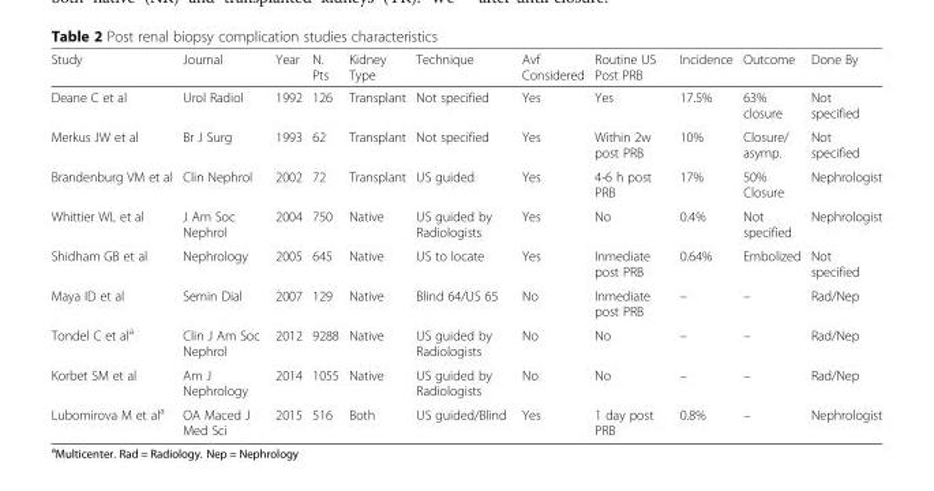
<table><thead><tr><td>Study</td><td>Journal</td><td>Year</td><td>N. Pts</td><td>Kidney Type</td><td>Technique</td><td>Avf Considered</td><td>Routine US Post PRB</td><td>Incidence</td><td>Outcome</td><td>Done By</td></tr></thead><tbody><tr><td>Deane C et al</td><td>Urol Radiol</td><td>1992</td><td>126</td><td>Transplant</td><td>Not specified</td><td>Yes</td><td>Yes</td><td>17.5%</td><td>63% closure</td><td>Not specified</td></tr><tr><td>Merkus JW et al</td><td>Br J Surg</td><td>1993</td><td>62</td><td>Transplant</td><td>Not specified</td><td>Yes</td><td>Within 2w post PRB</td><td>10%</td><td>Closure/ asymp.</td><td>Not specified</td></tr><tr><td>Brandenburg VM et al</td><td>Clin Nephrol</td><td>2002</td><td>72</td><td>Transplant</td><td>US guided</td><td>Yes</td><td>4-6 h post PRB</td><td>17%</td><td>50% Closure</td><td>Nephrologist</td></tr><tr><td>Whittier WL et al</td><td>J Am Soc Nephrol</td><td>2004</td><td>750</td><td>Native</td><td>US guided by Radiologists</td><td>Yes</td><td>No</td><td>0.4%</td><td>Not specified</td><td>Nephrologist</td></tr><tr><td>Shidham GB et al</td><td>Nephrology</td><td>2005</td><td>645</td><td>Native</td><td>US to locate</td><td>Yes</td><td>Inmediate post PRB</td><td>0.64%</td><td>Embolized</td><td>Not specified</td></tr><tr><td>Maya ID et al</td><td>Semin Dial</td><td>2007</td><td>129</td><td>Native</td><td>Blind 64/US 65</td><td>No</td><td>Inmediate post PRB</td><td>–</td><td>–</td><td>Rad/Nep</td></tr><tr><td>Tondel C et al<sup>a</sup></td><td>Clin J Am Soc Nephrol</td><td>2012</td><td>9288</td><td>Native</td><td>US guided by Radiologists</td><td>No</td><td>No</td><td>–</td><td>–</td><td>Rad/Nep</td></tr><tr><td>Korbet SM et al</td><td>Am J Nephrology</td><td>2014</td><td>1055</td><td>Native</td><td>US guided by Radiologists</td><td>No</td><td>No</td><td>–</td><td>–</td><td>Rad/Nep</td></tr><tr><td>Lubomirova M et al<sup>a</sup></td><td>OA Maced J Med Sci</td><td>2015</td><td>516</td><td>Both</td><td>US guided/Blind</td><td>Yes</td><td>1 day post PRB</td><td>0.8%</td><td>–</td><td>Nephrologist</td></tr></tbody></table>